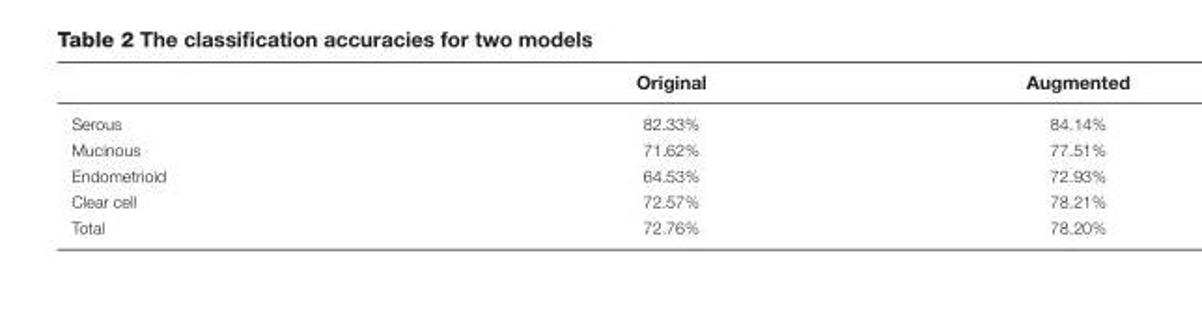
<table><thead><tr><td></td><td>Original</td><td>Augmented</td></tr></thead><tbody><tr><td>Serous</td><td>82.33%</td><td>84.14%</td></tr><tr><td>Mucinous</td><td>71.62%</td><td>77.51%</td></tr><tr><td>Endometrioid</td><td>64.53%</td><td>72.93%</td></tr><tr><td>Clear cell</td><td>72.57%</td><td>78.21%</td></tr><tr><td>Total</td><td>72.76%</td><td>78.20%</td></tr></tbody></table>